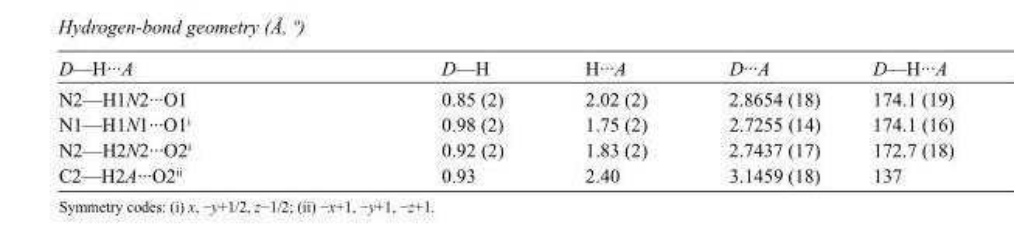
<table><tbody><tr><td>D—H···A</td><td>D—H</td><td>H···A</td><td>D···A</td><td>D—H···A</td></tr><tr><td>N2—H1N2···O1</td><td>0.85 (2)</td><td>2.02 (2)</td><td>2.8654 (18)</td><td>174.1 (19)</td></tr><tr><td>N1—H1N1···O1<sup>i</sup></td><td>0.98 (2)</td><td>1.75 (2)</td><td>2.7255 (14)</td><td>174.1 (16)</td></tr><tr><td>N2—H2N2···O2<sup>i</sup></td><td>0.92 (2)</td><td>1.83 (2)</td><td>2.7437 (17)</td><td>172.7 (18)</td></tr><tr><td>C2—H2A···O2<sup>ii</sup></td><td>0.93</td><td>2.40</td><td>3.1459 (18)</td><td>137</td></tr></tbody></table>